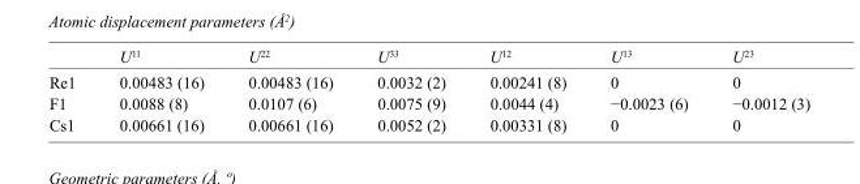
<table><thead><tr><td></td><td>U<sup>11</sup></td><td>U<sup>22</sup></td><td>U<sup>33</sup></td><td>U<sup>12</sup></td><td>U<sup>13</sup></td><td>U<sup>23</sup></td></tr></thead><tbody><tr><td>Re1</td><td>0.00483 (16)</td><td>0.00483 (16)</td><td>0.0032 (2)</td><td>0.00241 (8)</td><td>0</td><td>0</td></tr><tr><td>F1</td><td>0.0088 (8)</td><td>0.0107 (6)</td><td>0.0075 (9)</td><td>0.0044 (4)</td><td>−0.0023 (6)</td><td>−0.0012 (3)</td></tr><tr><td>Cs1</td><td>0.00661 (16)</td><td>0.00661 (16)</td><td>0.0052 (2)</td><td>0.00331 (8)</td><td>0</td><td>0</td></tr></tbody></table>